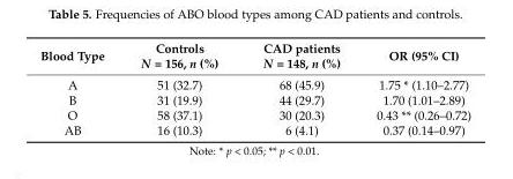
<table><thead><tr><td>Blood Type</td><td>Controls N = 156, n (%)</td><td>CAD patients N = 148, n (%)</td><td>OR (95% CI)</td></tr></thead><tbody><tr><td>A</td><td>51 (32.7)</td><td>68 (45.9)</td><td>1.75 * (1.10–2.77)</td></tr><tr><td>B</td><td>31 (19.9)</td><td>44 (29.7)</td><td>1.70 (1.01–2.89)</td></tr><tr><td>O</td><td>58 (37.1)</td><td>30 (20.3)</td><td>0.43 ** (0.26–0.72)</td></tr><tr><td>AB</td><td>16 (10.3)</td><td>6 (4.1)</td><td>0.37 (0.14–0.97)</td></tr></tbody></table>